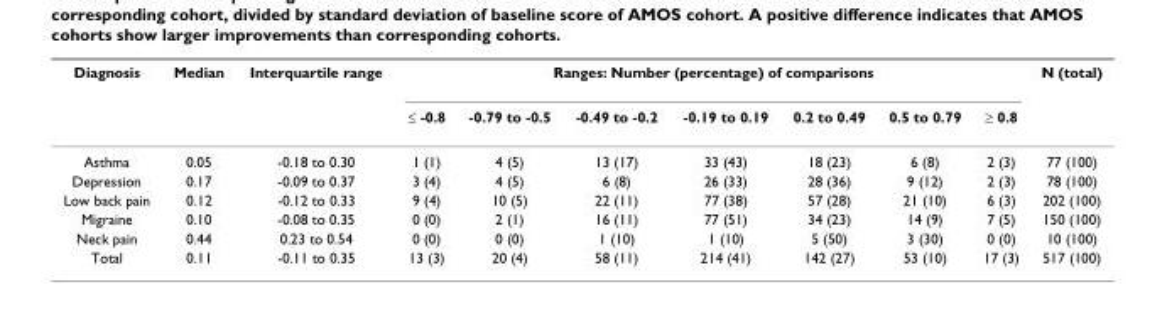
<table><thead><tr><td rowspan="2">Diagnosis</td><td rowspan="2">Median</td><td rowspan="2">Interquartile range</td><td colspan="7">Ranges: Number (percentage) of comparisons</td><td rowspan="2">N (total)</td></tr><tr><td>≤ -0.8</td><td>-0.79 to -0.5</td><td>-0.49 to -0.2</td><td>-0.19 to 0.19</td><td>0.2 to 0.49</td><td>0.5 to 0.79</td><td>≥ 0.8</td></tr></thead><tbody><tr><td>Asthma</td><td>0.05</td><td>-0.18 to 0.30</td><td>1 (1)</td><td>4 (5)</td><td>13 (17)</td><td>33 (43)</td><td>18 (23)</td><td>6 (8)</td><td>2 (3)</td><td>77 (100)</td></tr><tr><td>Depression</td><td>0.17</td><td>-0.09 to 0.37</td><td>3 (4)</td><td>4 (5)</td><td>6 (8)</td><td>26 (33)</td><td>28 (36)</td><td>9 (12)</td><td>2 (3)</td><td>78 (100)</td></tr><tr><td>Low back pain</td><td>0.12</td><td>-0.12 to 0.33</td><td>9 (4)</td><td>10 (5)</td><td>22 (11)</td><td>77 (38)</td><td>57 (28)</td><td>21 (10)</td><td>6 (3)</td><td>202 (100)</td></tr><tr><td>Migraine</td><td>0.10</td><td>-0.08 to 0.35</td><td>0 (0)</td><td>2 (1)</td><td>16 (11)</td><td>77 (51)</td><td>34 (23)</td><td>14 (9)</td><td>7 (5)</td><td>150 (100)</td></tr><tr><td>Neck pain</td><td>0.44</td><td>0.23 to 0.54</td><td>0 (0)</td><td>0 (0)</td><td>1 (10)</td><td>1 (10)</td><td>5 (50)</td><td>3 (30)</td><td>0 (0)</td><td>10 (100)</td></tr><tr><td>Total</td><td>0.11</td><td>-0.11 to 0.35</td><td>13 (3)</td><td>20 (4)</td><td>58 (11)</td><td>214 (41)</td><td>142 (27)</td><td>53 (10)</td><td>17 (3)</td><td>517 (100)</td></tr></tbody></table>